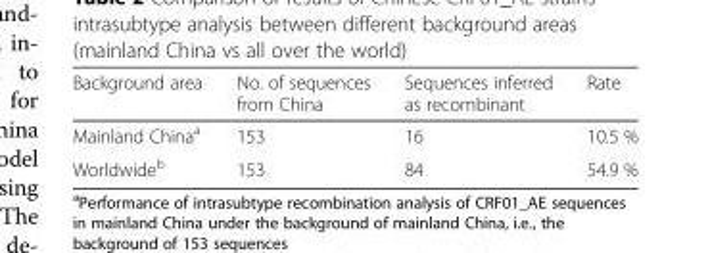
<table><thead><tr><td>Background area</td><td>No. of sequences from China</td><td>Sequences inferred as recombinant</td><td>Rate</td></tr></thead><tbody><tr><td>Mainland China<sup>a</sup></td><td>153</td><td>16</td><td>10.5 %</td></tr><tr><td>Worldwide<sup>b</sup></td><td>153</td><td>84</td><td>54.9 %</td></tr></tbody></table>